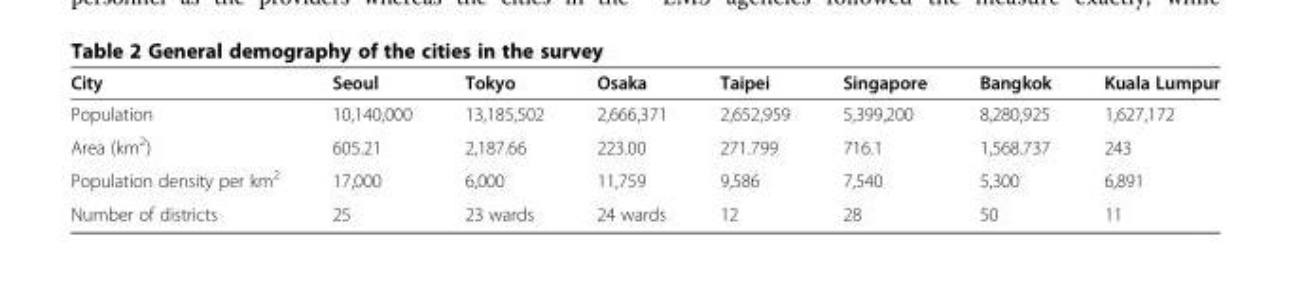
<table><thead><tr><td>City</td><td>Seoul</td><td>Tokyo</td><td>Osaka</td><td>Taipei</td><td>Singapore</td><td>Bangkok</td><td>Kuala Lumpur</td></tr></thead><tbody><tr><td>Population</td><td>10,140,000</td><td>13,185,502</td><td>2,666,371</td><td>2,652,959</td><td>5,399,200</td><td>8,280,925</td><td>1,627,172</td></tr><tr><td>Area (km<sup>2</sup>)</td><td>605.21</td><td>2,187.66</td><td>223.00</td><td>271.799</td><td>716.1</td><td>1,568.737</td><td>243</td></tr><tr><td>Population density per km<sup>2</sup></td><td>17,000</td><td>6,000</td><td>11,759</td><td>9,586</td><td>7,540</td><td>5,300</td><td>6,891</td></tr><tr><td>Number of districts</td><td>25</td><td>23 wards</td><td>24 wards</td><td>12</td><td>28</td><td>50</td><td>11</td></tr></tbody></table>